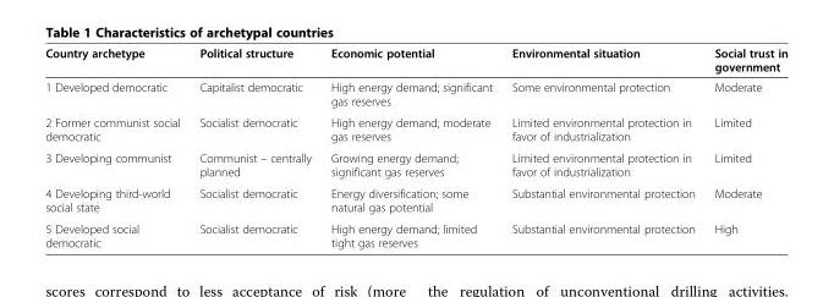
<table><thead><tr><td>Country archetype</td><td>Political structure</td><td>Economic potential</td><td>Environmental situation</td><td>Social trust in government</td></tr></thead><tbody><tr><td>1 Developed democratic</td><td>Capitalist democratic</td><td>High energy demand; significant gas reserves</td><td>Some environmental protection</td><td>Moderate</td></tr><tr><td>2 Former communist social democratic</td><td>Socialist democratic</td><td>High energy demand; moderate gas reserves</td><td>Limited environmental protection in favor of industrialization</td><td>Limited</td></tr><tr><td>3 Developing communist</td><td>Communist – centrally planned</td><td>Growing energy demand; significant gas reserves</td><td>Limited environmental protection in favor of industrialization</td><td>Limited</td></tr><tr><td>4 Developing third-world social state</td><td>Socialist democratic</td><td>Energy diversification; some natural gas potential</td><td>Substantial environmental protection</td><td>Moderate</td></tr><tr><td>5 Developed social democratic</td><td>Socialist democratic</td><td>High energy demand; limited tight gas reserves</td><td>Substantial environmental protection</td><td>High</td></tr></tbody></table>